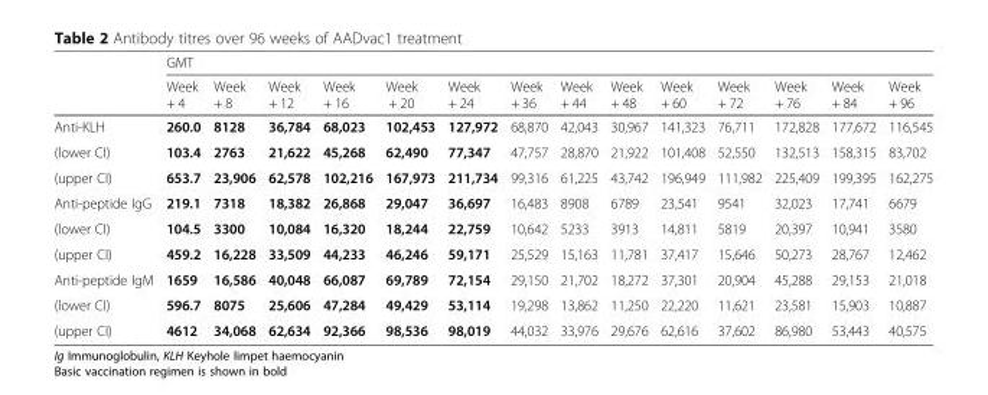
<table><thead><tr><td rowspan="2"></td><td colspan="14">GMT</td></tr><tr><td>Week + 4</td><td>Week + 8</td><td>Week + 12</td><td>Week + 16</td><td>Week + 20</td><td>Week + 24</td><td>Week + 36</td><td>Week + 44</td><td>Week + 48</td><td>Week + 60</td><td>Week + 72</td><td>Week + 76</td><td>Week + 84</td><td>Week + 96</td></tr></thead><tbody><tr><td>Anti-KLH</td><td>260.0</td><td>8128</td><td>36,784</td><td>68,023</td><td>102,453</td><td>127,972</td><td>68,870</td><td>42,043</td><td>30,967</td><td>141,323</td><td>76,711</td><td>172,828</td><td>177,672</td><td>116,545</td></tr><tr><td>(lower CI)</td><td>103.4</td><td>2763</td><td>21,622</td><td>45,268</td><td>62,490</td><td>77,347</td><td>47,757</td><td>28,870</td><td>21,922</td><td>101,408</td><td>52,550</td><td>132,513</td><td>158,315</td><td>83,702</td></tr><tr><td>(upper CI)</td><td>653.7</td><td>23,906</td><td>62,578</td><td>102,216</td><td>167,973</td><td>211,734</td><td>99,316</td><td>61,225</td><td>43,742</td><td>196,949</td><td>111,982</td><td>225,409</td><td>199,395</td><td>162,275</td></tr><tr><td>Anti-peptide IgG</td><td>219.1</td><td>7318</td><td>18,382</td><td>26,868</td><td>29,047</td><td>36,697</td><td>16,483</td><td>8908</td><td>6789</td><td>23,541</td><td>9541</td><td>32,023</td><td>17,741</td><td>6679</td></tr><tr><td>(lower CI)</td><td>104.5</td><td>3300</td><td>10,084</td><td>16,320</td><td>18,244</td><td>22,759</td><td>10,642</td><td>5233</td><td>3913</td><td>14,811</td><td>5819</td><td>20,397</td><td>10,941</td><td>3580</td></tr><tr><td>(upper CI)</td><td>459.2</td><td>16,228</td><td>33,509</td><td>44,233</td><td>46,246</td><td>59,171</td><td>25,529</td><td>15,163</td><td>11,781</td><td>37,417</td><td>15,646</td><td>50,273</td><td>28,767</td><td>12,462</td></tr><tr><td>Anti-peptide IgM</td><td>1659</td><td>16,586</td><td>40,048</td><td>66,087</td><td>69,789</td><td>72,154</td><td>29,150</td><td>21,702</td><td>18,272</td><td>37,301</td><td>20,904</td><td>45,288</td><td>29,153</td><td>21,018</td></tr><tr><td>(lower CI)</td><td>596.7</td><td>8075</td><td>25,606</td><td>47,284</td><td>49,429</td><td>53,114</td><td>19,298</td><td>13,862</td><td>11,250</td><td>22,220</td><td>11,621</td><td>23,581</td><td>15,903</td><td>10,887</td></tr><tr><td>(upper CI)</td><td>4612</td><td>34,068</td><td>62,634</td><td>92,366</td><td>98,536</td><td>98,019</td><td>44,032</td><td>33,976</td><td>29,676</td><td>62,616</td><td>37,602</td><td>86,980</td><td>53,443</td><td>40,575</td></tr></tbody></table>